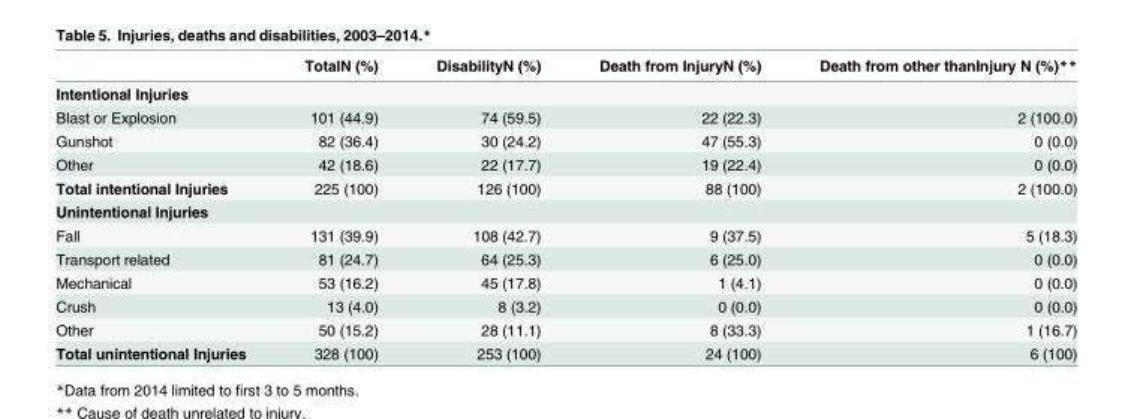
<table><thead><tr><td></td><td>TotalN (%)</td><td>DisabilityN (%)</td><td>Death from InjuryN (%)</td><td>Death from other thanInjury N (%)**</td></tr></thead><tbody><tr><td colspan="5">Intentional Injuries</td></tr><tr><td>Blast or Explosion</td><td>101 (44.9)</td><td>74 (59.5)</td><td>22 (22.3)</td><td>2 (100.0)</td></tr><tr><td>Gunshot</td><td>82 (36.4)</td><td>30 (24.2)</td><td>47 (55.3)</td><td>0 (0.0)</td></tr><tr><td>Other</td><td>42 (18.6)</td><td>22 (17.7)</td><td>19 (22.4)</td><td>0 (0.0)</td></tr><tr><td>Total intentional Injuries</td><td>225 (100)</td><td>126 (100)</td><td>88 (100)</td><td>2 (100.0)</td></tr><tr><td colspan="5">Unintentional Injuries</td></tr><tr><td>Fall</td><td>131 (39.9)</td><td>108 (42.7)</td><td>9 (37.5)</td><td>5 (18.3)</td></tr><tr><td>Transport related</td><td>81 (24.7)</td><td>64 (25.3)</td><td>6 (25.0)</td><td>0 (0.0)</td></tr><tr><td>Mechanical</td><td>53 (16.2)</td><td>45 (17.8)</td><td>1 (4.1)</td><td>0 (0.0)</td></tr><tr><td>Crush</td><td>13 (4.0)</td><td>8 (3.2)</td><td>0 (0.0)</td><td>0 (0.0)</td></tr><tr><td>Other</td><td>50 (15.2)</td><td>28 (11.1)</td><td>8 (33.3)</td><td>1 (16.7)</td></tr><tr><td>Total unintentional Injuries</td><td>328 (100)</td><td>253 (100)</td><td>24 (100)</td><td>6 (100)</td></tr></tbody></table>